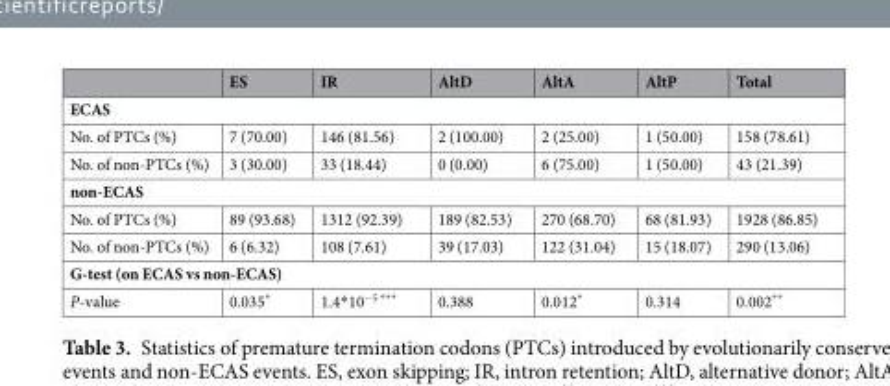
<table><thead><tr><td></td><td>ES</td><td>IR</td><td>AltD</td><td>AltA</td><td>AltP</td><td>Total</td></tr></thead><tbody><tr><td colspan="7">ECAS</td></tr><tr><td>No. of PTCs (%)</td><td>7 (70.00)</td><td>146 (81.56)</td><td>2 (100.00)</td><td>2 (25.00)</td><td>1 (50.00)</td><td>158 (78.61)</td></tr><tr><td>No. of non-PTCs (%)</td><td>3 (30.00)</td><td>33 (18.44)</td><td>0 (0.00)</td><td>6 (75.00)</td><td>1 (50.00)</td><td>43 (21.39)</td></tr><tr><td colspan="7">non-ECAS</td></tr><tr><td>No. of PTCs (%)</td><td>89 (93.68)</td><td>1312 (92.39)</td><td>189 (82.53)</td><td>270 (68.70)</td><td>68 (81.93)</td><td>1928 (86.85)</td></tr><tr><td>No. of non-PTCs (%)</td><td>6 (6.32)</td><td>108 (7.61)</td><td>39 (17.03)</td><td>122 (31.04)</td><td>15 (18.07)</td><td>290 (13.06)</td></tr><tr><td colspan="7">G-test (on ECAS vs non-ECAS)</td></tr><tr><td>P-value</td><td>0.035*</td><td>1.4*10<sup>−5 ***</sup></td><td>0.388</td><td>0.012*</td><td>0.314</td><td>0.002**</td></tr></tbody></table>